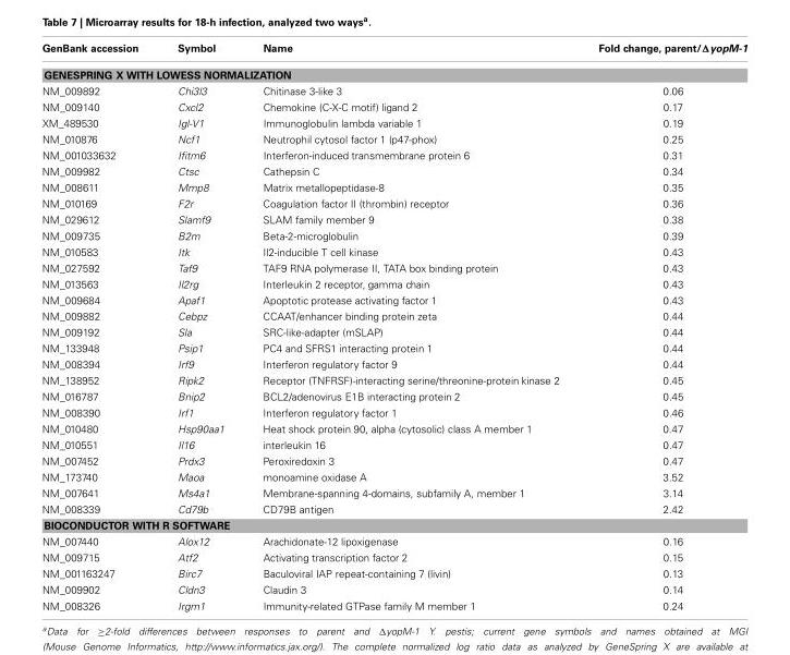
<table><thead><tr><td>GenBank accession</td><td>Symbol</td><td>Name</td><td>Fold change, parent/ΔyopM-1</td></tr></thead><tbody><tr><td colspan="4">GENESPRING X WITH LOWESS NORMALIZATION</td></tr><tr><td>NM_009892</td><td>Chi3l3</td><td>Chitinase 3-like 3</td><td>0.06</td></tr><tr><td>NM_009140</td><td>Cxcl2</td><td>Chemokine (C-X-C motif) ligand 2</td><td>0.17</td></tr><tr><td>XM_489530</td><td>Igl-V1</td><td>Immunoglobulin lambda variable 1</td><td>0.19</td></tr><tr><td>NM_010876</td><td>Ncf1</td><td>Neutrophil cytosol factor 1 (p47-phox)</td><td>0.25</td></tr><tr><td>NM_001033632</td><td>Ifitm6</td><td>Interferon-induced transmembrane protein 6</td><td>0.31</td></tr><tr><td>NM_009982</td><td>Ctsc</td><td>Cathepsin C</td><td>0.34</td></tr><tr><td>NM_008611</td><td>Mmp8</td><td>Matrix metallopeptidase-8</td><td>0.35</td></tr><tr><td>NM_010169</td><td>F2r</td><td>Coagulation factor II (thrombin) receptor</td><td>0.36</td></tr><tr><td>NM_029612</td><td>Slamf9</td><td>SLAM family member 9</td><td>0.38</td></tr><tr><td>NM_009735</td><td>B2m</td><td>Beta-2-microglobulin</td><td>0.39</td></tr><tr><td>NM_010583</td><td>Itk</td><td>Il2-inducible T cell kinase</td><td>0.43</td></tr><tr><td>NM_027592</td><td>Taf9</td><td>TAF9 RNA polymerase II, TATA box binding protein</td><td>0.43</td></tr><tr><td>NM_013563</td><td>Il2rg</td><td>Interleukin 2 receptor, gamma chain</td><td>0.43</td></tr><tr><td>NM_009684</td><td>Apaf1</td><td>Apoptotic protease activating factor 1</td><td>0.43</td></tr><tr><td>NM_009882</td><td>Cebpz</td><td>CCAAT/enhancer binding protein zeta</td><td>0.44</td></tr><tr><td>NM_009192</td><td>Sla</td><td>SRC-like-adapter (mSLAP)</td><td>0.44</td></tr><tr><td>NM_133948</td><td>Psip1</td><td>PC4 and SFRS1 interacting protein 1</td><td>0.44</td></tr><tr><td>NM_008394</td><td>Irf9</td><td>Interferon regulatory factor 9</td><td>0.44</td></tr><tr><td>NM_138952</td><td>Ripk2</td><td>Receptor (TNFRSF)-interacting serine/threonine-protein kinase 2</td><td>0.45</td></tr><tr><td>NM_016787</td><td>Bnip2</td><td>BCL2/adenovirus E1B interacting protein 2</td><td>0.45</td></tr><tr><td>NM_008390</td><td>Irf1</td><td>Interferon regulatory factor 1</td><td>0.46</td></tr><tr><td>NM_010480</td><td>Hsp90aa1</td><td>Heat shock protein 90, alpha (cytosolic) class A member 1</td><td>0.47</td></tr><tr><td>NM_010551</td><td>Il16</td><td>interleukin 16</td><td>0.47</td></tr><tr><td>NM_007452</td><td>Prdx3</td><td>Peroxiredoxin 3</td><td>0.47</td></tr><tr><td>NM_173740</td><td>Maoa</td><td>monoamine oxidase A</td><td>3.52</td></tr><tr><td>NM_007641</td><td>Ms4a1</td><td>Membrane-spanning 4-domains, subfamily A, member 1</td><td>3.14</td></tr><tr><td>NM_008339</td><td>Cd79b</td><td>CD79B antigen</td><td>2.42</td></tr><tr><td colspan="4">BIOCONDUCTOR WITH R SOFTWARE</td></tr><tr><td>NM_007440</td><td>Alox12</td><td>Arachidonate-12 lipoxigenase</td><td>0.16</td></tr><tr><td>NM_009715</td><td>Atf2</td><td>Activating transcription factor 2</td><td>0.15</td></tr><tr><td>NM_001163247</td><td>Birc7</td><td>Baculoviral IAP repeat-containing 7 (livin)</td><td>0.13</td></tr><tr><td>NM_009902</td><td>Cldn3</td><td>Claudin 3</td><td>0.14</td></tr><tr><td>NM_008326</td><td>Irgm1</td><td>Immunity-related GTPase family M member 1</td><td>0.24</td></tr></tbody></table>